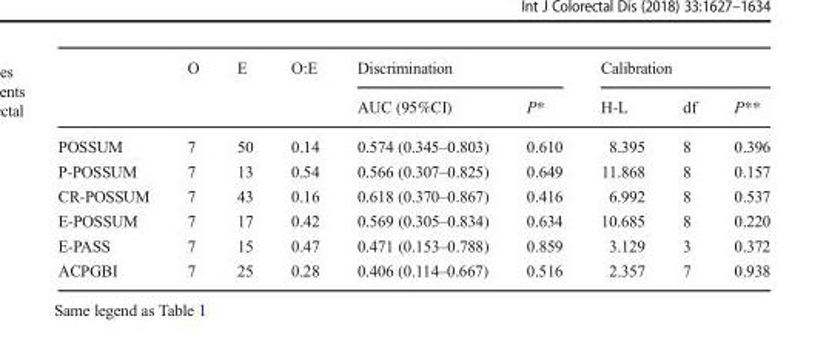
<table><thead><tr><td rowspan="2"></td><td rowspan="2">O</td><td rowspan="2">E</td><td rowspan="2">O:E</td><td colspan="2">Discrimination</td><td colspan="3">Calibration</td></tr><tr><td>AUC (95%CI)</td><td>P*</td><td>H-L</td><td>df</td><td>P**</td></tr></thead><tbody><tr><td>POSSUM</td><td>7</td><td>50</td><td>0.14</td><td>0.574 (0.345–0.803)</td><td>0.610</td><td>8.395</td><td>8</td><td>0.396</td></tr><tr><td>P-POSSUM</td><td>7</td><td>13</td><td>0.54</td><td>0.566 (0.307–0.825)</td><td>0.649</td><td>11.868</td><td>8</td><td>0.157</td></tr><tr><td>CR-POSSUM</td><td>7</td><td>43</td><td>0.16</td><td>0.618 (0.370–0.867)</td><td>0.416</td><td>6.992</td><td>8</td><td>0.537</td></tr><tr><td>E-POSSUM</td><td>7</td><td>17</td><td>0.42</td><td>0.569 (0.305–0.834)</td><td>0.634</td><td>10.685</td><td>8</td><td>0.220</td></tr><tr><td>E-PASS</td><td>7</td><td>15</td><td>0.47</td><td>0.471 (0.153–0.788)</td><td>0.859</td><td>3.129</td><td>3</td><td>0.372</td></tr><tr><td>ACPGBI</td><td>7</td><td>25</td><td>0.28</td><td>0.406 (0.114–0.667)</td><td>0.516</td><td>2.357</td><td>7</td><td>0.938</td></tr></tbody></table>